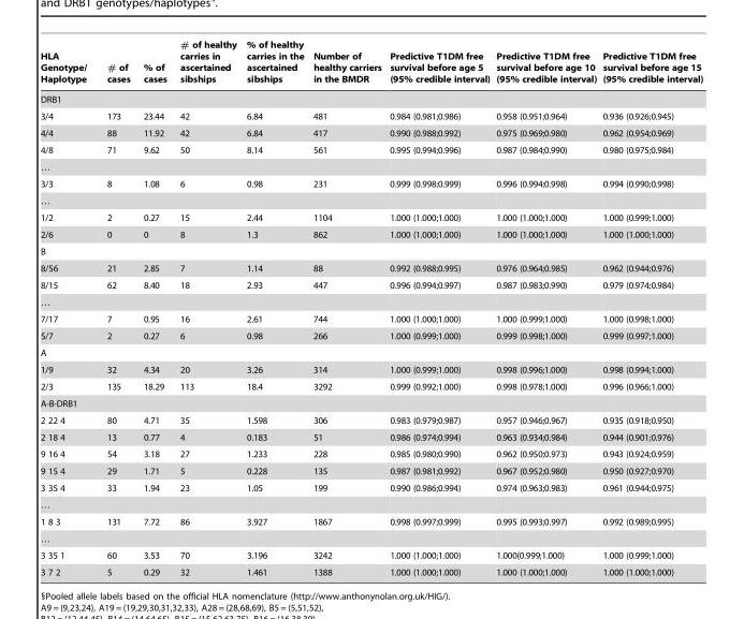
<table><thead><tr><td>HLA Genotype/ Haplotype</td><td># of cases</td><td>% of cases</td><td># of healthy carries in ascertained sibships</td><td>% of healthy carries in the ascertained sibships</td><td>Number of healthy carriers in the BMDR</td><td>Predictive T1DM free survival before age 5 (95% credible interval)</td><td>Predictive T1DM free survival before age 10 (95% credible interval)</td><td>Predictive T1DM free survival before age 15 (95% credible interval)</td></tr></thead><tbody><tr><td colspan="9">DRB1</td></tr><tr><td>3/4</td><td>173</td><td>23.44</td><td>42</td><td>6.84</td><td>481</td><td>0.984 (0.981;0.986)</td><td>0.958 (0.951;0.964)</td><td>0.936 (0.926;0.945)</td></tr><tr><td>4/4</td><td>88</td><td>11.92</td><td>42</td><td>6.84</td><td>417</td><td>0.990 (0.988;0.992)</td><td>0.975 (0.969;0.980)</td><td>0.962 (0.954;0.969)</td></tr><tr><td>4/8</td><td>71</td><td>9.62</td><td>50</td><td>8.14</td><td>561</td><td>0.995 (0.994;0.996)</td><td>0.987 (0.984;0.990)</td><td>0.980 (0.975;0.984)</td></tr><tr><td colspan="9">…</td></tr><tr><td>3/3</td><td>8</td><td>1.08</td><td>6</td><td>0.98</td><td>231</td><td>0.999 (0.998;0.999)</td><td>0.996 (0.994;0.998)</td><td>0.994 (0.990;0.998)</td></tr><tr><td colspan="9">…</td></tr><tr><td>1/2</td><td>2</td><td>0.27</td><td>15</td><td>2.44</td><td>1104</td><td>1.000 (1.000;1.000)</td><td>1.000 (1.000;1.000)</td><td>1.000 (0.999;1.000)</td></tr><tr><td>2/6</td><td>0</td><td>0</td><td>8</td><td>1.3</td><td>862</td><td>1.000 (1.000;1.000)</td><td>1.000 (1.000;1.000)</td><td>1.000 (1.000;1.000)</td></tr><tr><td colspan="9">B</td></tr><tr><td>8/56</td><td>21</td><td>2.85</td><td>7</td><td>1.14</td><td>88</td><td>0.992 (0.988;0.995)</td><td>0.976 (0.964;0.985)</td><td>0.962 (0.944;0.976)</td></tr><tr><td>8/15</td><td>62</td><td>8.40</td><td>18</td><td>2.93</td><td>447</td><td>0.996 (0.994;0.997)</td><td>0.987 (0.983;0.990)</td><td>0.979 (0.974;0.984)</td></tr><tr><td colspan="9">…</td></tr><tr><td>7/17</td><td>7</td><td>0.95</td><td>16</td><td>2.61</td><td>744</td><td>1.000 (1.000;1.000)</td><td>1.000 (0.999;1.000)</td><td>1.000 (0.998;1.000)</td></tr><tr><td>5/7</td><td>2</td><td>0.27</td><td>6</td><td>0.98</td><td>266</td><td>1.000 (0.999;1.000)</td><td>0.999 (0.998;1.000)</td><td>0.999 (0.997;1.000)</td></tr><tr><td colspan="9">A</td></tr><tr><td>1/9</td><td>32</td><td>4.34</td><td>20</td><td>3.26</td><td>314</td><td>1.000 (0.999;1.000)</td><td>0.998 (0.996;1.000)</td><td>0.998 (0.994;1.000)</td></tr><tr><td>2/3</td><td>135</td><td>18.29</td><td>113</td><td>18.4</td><td>3292</td><td>0.999 (0.992;1.000)</td><td>0.998 (0.978;1.000)</td><td>0.996 (0.966;1.000)</td></tr><tr><td colspan="9">A-B-DRB1</td></tr><tr><td>2 22 4</td><td>80</td><td>4.71</td><td>35</td><td>1.598</td><td>306</td><td>0.983 (0.979;0.987)</td><td>0.957 (0.946;0.967)</td><td>0.935 (0.918;0.950)</td></tr><tr><td>2 18 4</td><td>13</td><td>0.77</td><td>4</td><td>0.183</td><td>51</td><td>0.986 (0.974;0.994)</td><td>0.963 (0.934;0.984)</td><td>0.944 (0.901;0.976)</td></tr><tr><td>9 16 4</td><td>54</td><td>3.18</td><td>27</td><td>1.233</td><td>228</td><td>0.985 (0.980;0.990)</td><td>0.962 (0.950;0.973)</td><td>0.943 (0.924;0.959)</td></tr><tr><td>9 15 4</td><td>29</td><td>1.71</td><td>5</td><td>0.228</td><td>135</td><td>0.987 (0.981;0.992)</td><td>0.967 (0.952;0.980)</td><td>0.950 (0.927;0.970)</td></tr><tr><td>3 35 4</td><td>33</td><td>1.94</td><td>23</td><td>1.05</td><td>199</td><td>0.990 (0.986;0.994)</td><td>0.974 (0.963;0.983)</td><td>0.961 (0.944;0.975)</td></tr><tr><td colspan="9">…</td></tr><tr><td>1 8 3</td><td>131</td><td>7.72</td><td>86</td><td>3.927</td><td>1867</td><td>0.998 (0.997;0.999)</td><td>0.995 (0.993;0.997)</td><td>0.992 (0.989;0.995)</td></tr><tr><td colspan="9">…</td></tr><tr><td>3 35 1</td><td>60</td><td>3.53</td><td>70</td><td>3.196</td><td>3242</td><td>1.000 (1.000;1.000)</td><td>1.000(0.999;1.000)</td><td>1.000 (0.999;1.000)</td></tr><tr><td>3 7 2</td><td>5</td><td>0.29</td><td>32</td><td>1.461</td><td>1388</td><td>1.000 (1.000;1.000)</td><td>1.000 (1.000;1.000)</td><td>1.000 (1.000;1.000)</td></tr></tbody></table>